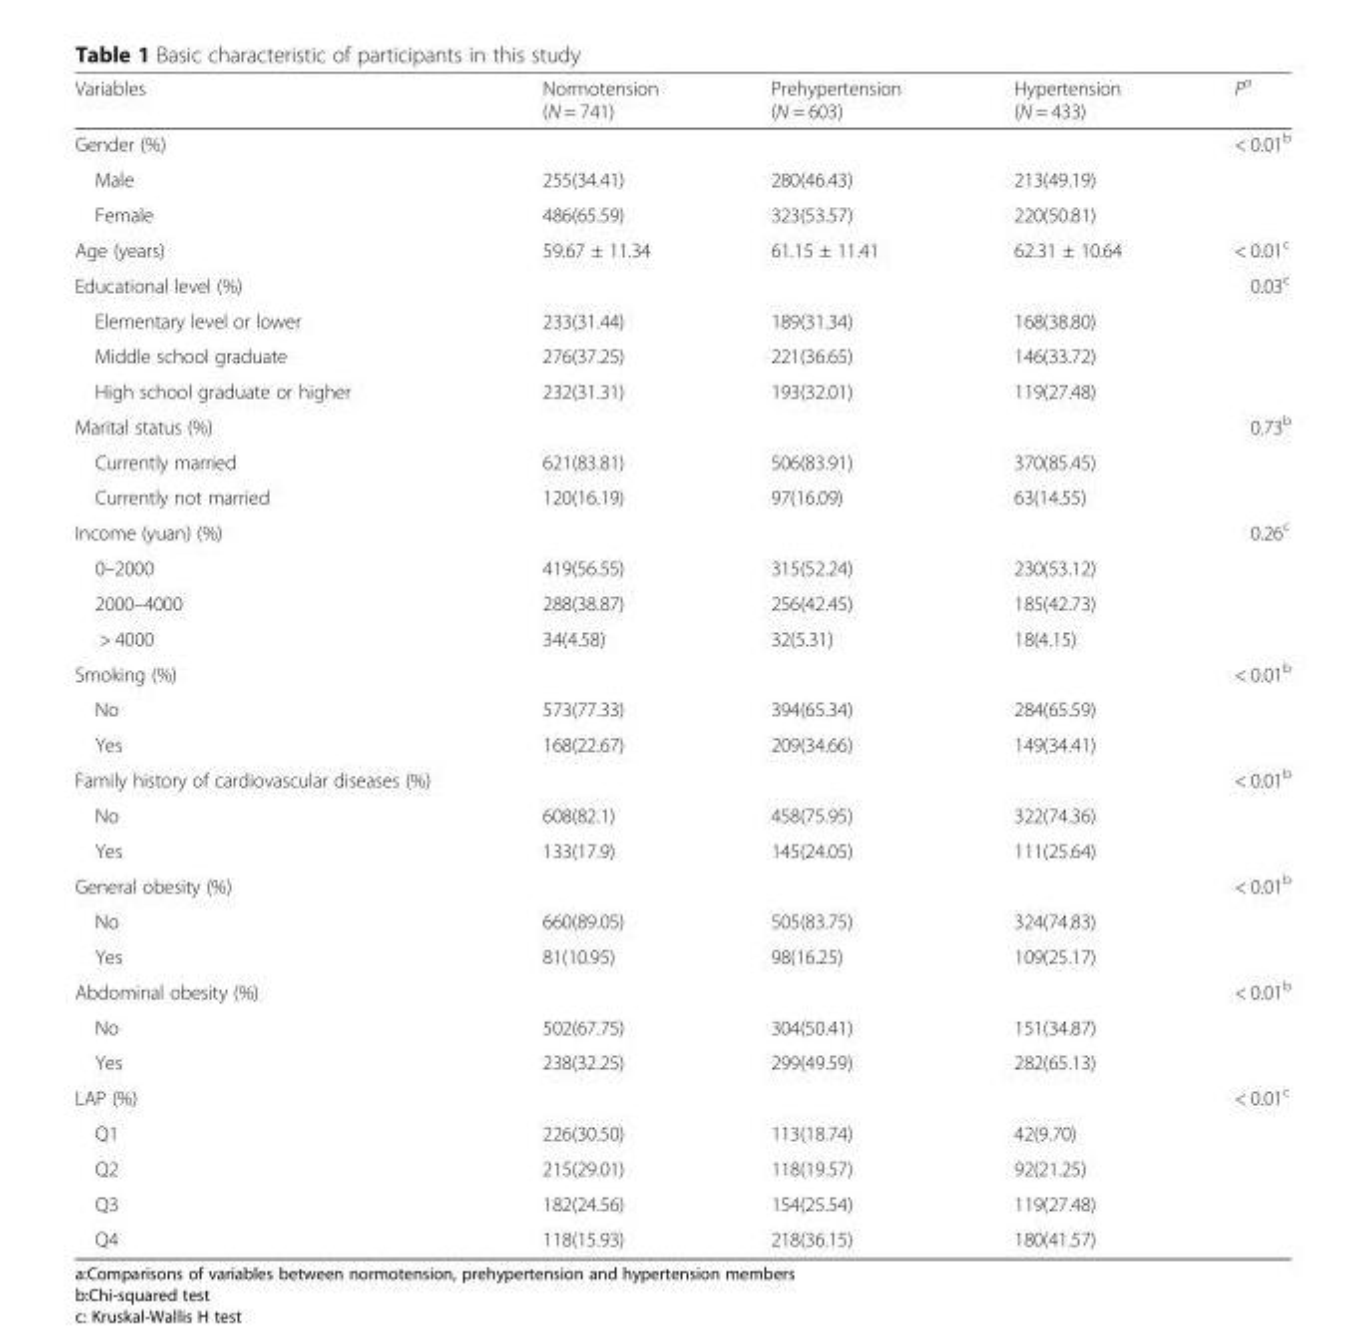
<table><thead><tr><td>Variables</td><td>Normotension (N = 741)</td><td>Prehypertension (N = 603)</td><td>Hypertension (N = 433)</td><td>P<sup>a</sup></td></tr></thead><tbody><tr><td>Gender (%)</td><td></td><td></td><td></td><td>&lt; 0.01<sup>b</sup></td></tr><tr><td>Male</td><td>255(34.41)</td><td>280(46.43)</td><td>213(49.19)</td><td></td></tr><tr><td>Female</td><td>486(65.59)</td><td>323(53.57)</td><td>220(50.81)</td><td></td></tr><tr><td>Age (years)</td><td>59.67 ± 11.34</td><td>61.15 ± 11.41</td><td>62.31 ± 10.64</td><td>&lt; 0.01<sup>c</sup></td></tr><tr><td>Educational level (%)</td><td></td><td></td><td></td><td>0.03<sup>c</sup></td></tr><tr><td>Elementary level or lower</td><td>233(31.44)</td><td>189(31.34)</td><td>168(38.80)</td><td></td></tr><tr><td>Middle school graduate</td><td>276(37.25)</td><td>221(36.65)</td><td>146(33.72)</td><td></td></tr><tr><td>High school graduate or higher</td><td>232(31.31)</td><td>193(32.01)</td><td>119(27.48)</td><td></td></tr><tr><td>Marital status (%)</td><td></td><td></td><td></td><td>0.73<sup>b</sup></td></tr><tr><td>Currently married</td><td>621(83.81)</td><td>506(83.91)</td><td>370(85.45)</td><td></td></tr><tr><td>Currently not married</td><td>120(16.19)</td><td>97(16.09)</td><td>63(14.55)</td><td></td></tr><tr><td>Income (yuan) (%)</td><td></td><td></td><td></td><td>0.26<sup>c</sup></td></tr><tr><td>0–2000</td><td>419(56.55)</td><td>315(52.24)</td><td>230(53.12)</td><td></td></tr><tr><td>2000–4000</td><td>288(38.87)</td><td>256(42.45)</td><td>185(42.73)</td><td></td></tr><tr><td>&gt; 4000</td><td>34(4.58)</td><td>32(5.31)</td><td>18(4.15)</td><td></td></tr><tr><td>Smoking (%)</td><td></td><td></td><td></td><td>&lt; 0.01<sup>b</sup></td></tr><tr><td>No</td><td>573(77.33)</td><td>394(65.34)</td><td>284(65.59)</td><td></td></tr><tr><td>Yes</td><td>168(22.67)</td><td>209(34.66)</td><td>149(34.41)</td><td></td></tr><tr><td>Family history of cardiovascular diseases (%)</td><td></td><td></td><td></td><td>&lt; 0.01<sup>b</sup></td></tr><tr><td>No</td><td>608(82.1)</td><td>458(75.95)</td><td>322(74.36)</td><td></td></tr><tr><td>Yes</td><td>133(17.9)</td><td>145(24.05)</td><td>111(25.64)</td><td></td></tr><tr><td>General obesity (%)</td><td></td><td></td><td></td><td>&lt; 0.01<sup>b</sup></td></tr><tr><td>No</td><td>660(89.05)</td><td>505(83.75)</td><td>324(74.83)</td><td></td></tr><tr><td>Yes</td><td>81(10.95)</td><td>98(16.25)</td><td>109(25.17)</td><td></td></tr><tr><td>Abdominal obesity (%)</td><td></td><td></td><td></td><td>&lt; 0.01<sup>b</sup></td></tr><tr><td>No</td><td>502(67.75)</td><td>304(50.41)</td><td>151(34.87)</td><td></td></tr><tr><td>Yes</td><td>238(32.25)</td><td>299(49.59)</td><td>282(65.13)</td><td></td></tr><tr><td>LAP (%)</td><td></td><td></td><td></td><td>&lt; 0.01<sup>c</sup></td></tr><tr><td>Q1</td><td>226(30.50)</td><td>113(18.74)</td><td>42(9.70)</td><td></td></tr><tr><td>Q2</td><td>215(29.01)</td><td>118(19.57)</td><td>92(21.25)</td><td></td></tr><tr><td>Q3</td><td>182(24.56)</td><td>154(25.54)</td><td>119(27.48)</td><td></td></tr><tr><td>Q4</td><td>118(15.93)</td><td>218(36.15)</td><td>180(41.57)</td><td></td></tr></tbody></table>